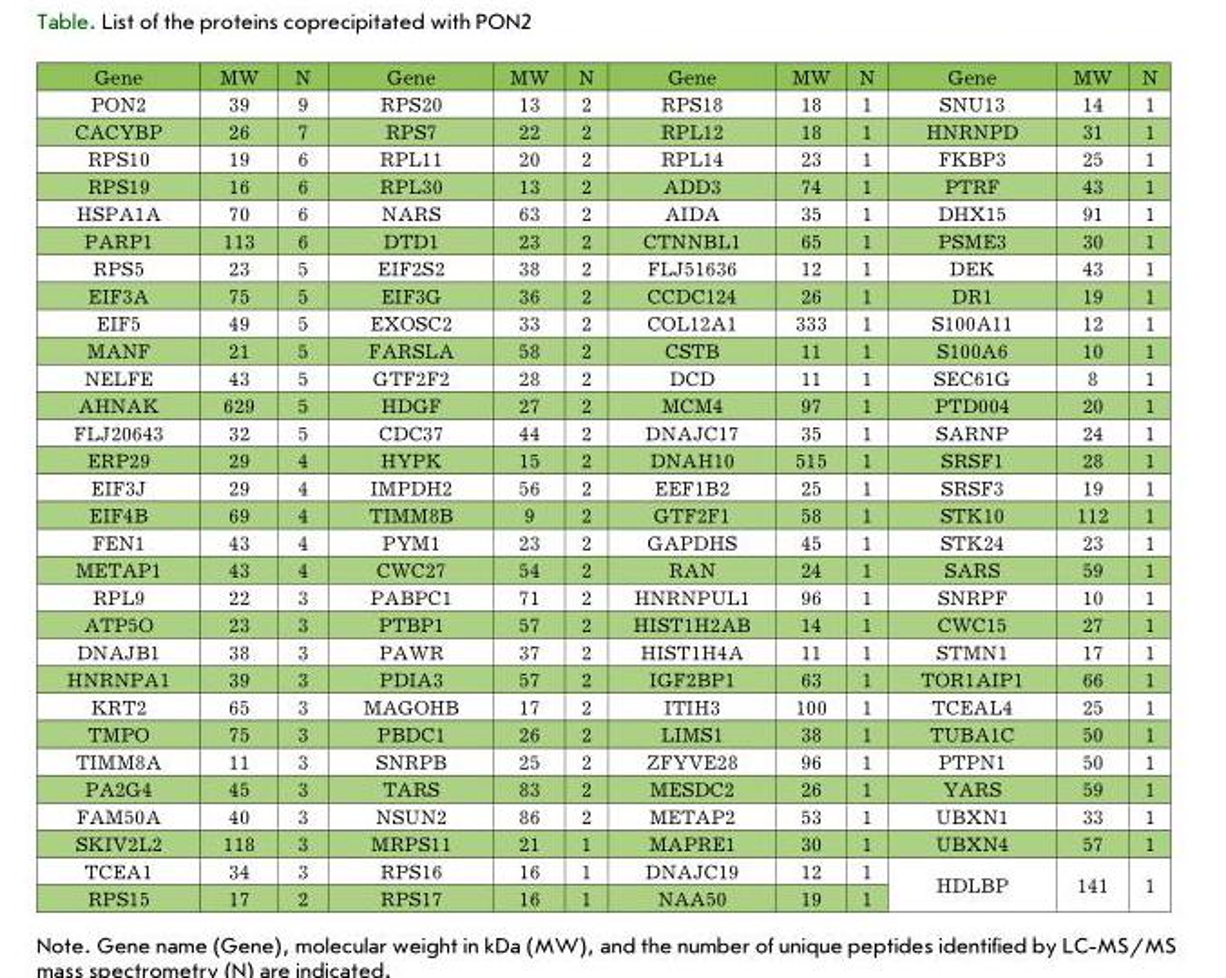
<table><thead><tr><td>Gene</td><td>MW</td><td>N</td><td>Gene</td><td>MW</td><td>N</td><td>Gene</td><td>MW</td><td>N</td><td>Gene</td><td>MW</td><td>N</td></tr></thead><tbody><tr><td>PON2</td><td>39</td><td>9</td><td>RPS20</td><td>13</td><td>2</td><td>RPS18</td><td>18</td><td>1</td><td>SNU13</td><td>14</td><td>1</td></tr><tr><td>CACYBP</td><td>26</td><td>7</td><td>RPS7</td><td>22</td><td>2</td><td>RPL12</td><td>18</td><td>1</td><td>HNRNPD</td><td>31</td><td>1</td></tr><tr><td>RPS10</td><td>19</td><td>6</td><td>RPL11</td><td>20</td><td>2</td><td>RPL14</td><td>23</td><td>1</td><td>FKBP3</td><td>25</td><td>1</td></tr><tr><td>RPS19</td><td>16</td><td>6</td><td>RPL30</td><td>13</td><td>2</td><td>ADD3</td><td>74</td><td>1</td><td>PTRF</td><td>43</td><td>1</td></tr><tr><td>HSPA1A</td><td>70</td><td>6</td><td>NARS</td><td>63</td><td>2</td><td>AIDA</td><td>35</td><td>1</td><td>DHX15</td><td>91</td><td>1</td></tr><tr><td>PARP1</td><td>113</td><td>6</td><td>DTD1</td><td>23</td><td>2</td><td>CTNNBL1</td><td>65</td><td>1</td><td>PSME3</td><td>30</td><td>1</td></tr><tr><td>RPS5</td><td>23</td><td>5</td><td>EIF2S2</td><td>38</td><td>2</td><td>FLJ51636</td><td>12</td><td>1</td><td>DEK</td><td>43</td><td>1</td></tr><tr><td>EIF3A</td><td>75</td><td>5</td><td>EIF3G</td><td>36</td><td>2</td><td>CCDC124</td><td>26</td><td>1</td><td>DR1</td><td>19</td><td>1</td></tr><tr><td>EIF5</td><td>49</td><td>5</td><td>EXOSC2</td><td>33</td><td>2</td><td>COL12A1</td><td>333</td><td>1</td><td>S100A11</td><td>12</td><td>1</td></tr><tr><td>MANF</td><td>21</td><td>5</td><td>FARSLA</td><td>58</td><td>2</td><td>CSTB</td><td>11</td><td>1</td><td>S100A6</td><td>10</td><td>1</td></tr><tr><td>NELFE</td><td>43</td><td>5</td><td>GTF2F2</td><td>28</td><td>2</td><td>DCD</td><td>11</td><td>1</td><td>SEC61G</td><td>8</td><td>1</td></tr><tr><td>AHNAK</td><td>629</td><td>5</td><td>HDGF</td><td>27</td><td>2</td><td>MCM4</td><td>97</td><td>1</td><td>PTD004</td><td>20</td><td>1</td></tr><tr><td>FLJ20643</td><td>32</td><td>5</td><td>CDC37</td><td>44</td><td>2</td><td>DNAJC17</td><td>35</td><td>1</td><td>SARNP</td><td>24</td><td>1</td></tr><tr><td>ERP29</td><td>29</td><td>4</td><td>HYPK</td><td>15</td><td>2</td><td>DNAH10</td><td>515</td><td>1</td><td>SRSF1</td><td>28</td><td>1</td></tr><tr><td>EIF3J</td><td>29</td><td>4</td><td>IMPDH2</td><td>56</td><td>2</td><td>EEF1B2</td><td>25</td><td>1</td><td>SRSF3</td><td>19</td><td>1</td></tr><tr><td>EIF4B</td><td>69</td><td>4</td><td>TIMM8B</td><td>9</td><td>2</td><td>GTF2F1</td><td>58</td><td>1</td><td>STK10</td><td>112</td><td>1</td></tr><tr><td>FEN1</td><td>43</td><td>4</td><td>PYM1</td><td>23</td><td>2</td><td>GAPDHS</td><td>45</td><td>1</td><td>STK24</td><td>23</td><td>1</td></tr><tr><td>METAP1</td><td>43</td><td>4</td><td>CWC27</td><td>54</td><td>2</td><td>RAN</td><td>24</td><td>1</td><td>SARS</td><td>59</td><td>1</td></tr><tr><td>RPL9</td><td>22</td><td>3</td><td>PABPC1</td><td>71</td><td>2</td><td>HNRNPUL1</td><td>96</td><td>1</td><td>SNRPF</td><td>10</td><td>1</td></tr><tr><td>ATP5O</td><td>23</td><td>3</td><td>PTBP1</td><td>57</td><td>2</td><td>HIST1H2AB</td><td>14</td><td>1</td><td>CWC15</td><td>27</td><td>1</td></tr><tr><td>DNAJB1</td><td>38</td><td>3</td><td>PAWR</td><td>37</td><td>2</td><td>HIST1H4A</td><td>11</td><td>1</td><td>STMN1</td><td>17</td><td>1</td></tr><tr><td>HNRNPA1</td><td>39</td><td>3</td><td>PDIA3</td><td>57</td><td>2</td><td>IGF2BP1</td><td>63</td><td>1</td><td>TOR1AIP1</td><td>66</td><td>1</td></tr><tr><td>KRT2</td><td>65</td><td>3</td><td>MAGOHB</td><td>17</td><td>2</td><td>ITIH3</td><td>100</td><td>1</td><td>TCEAL4</td><td>25</td><td>1</td></tr><tr><td>TMPO</td><td>75</td><td>3</td><td>PBDC1</td><td>26</td><td>2</td><td>LIMS1</td><td>38</td><td>1</td><td>TUBA1C</td><td>50</td><td>1</td></tr><tr><td>TIMM8A</td><td>11</td><td>3</td><td>SNRPB</td><td>25</td><td>2</td><td>ZFYVE28</td><td>96</td><td>1</td><td>PTPN1</td><td>50</td><td>1</td></tr><tr><td>PA2G4</td><td>45</td><td>3</td><td>TARS</td><td>83</td><td>2</td><td>MESDC2</td><td>26</td><td>1</td><td>YARS</td><td>59</td><td>1</td></tr><tr><td>FAM50A</td><td>40</td><td>3</td><td>NSUN2</td><td>86</td><td>2</td><td>METAP2</td><td>53</td><td>1</td><td>UBXN1</td><td>33</td><td>1</td></tr><tr><td>SKIV2L2</td><td>118</td><td>3</td><td>MRPS11</td><td>21</td><td>1</td><td>MAPRE1</td><td>30</td><td>1</td><td>UBXN4</td><td>57</td><td>1</td></tr><tr><td>TCEA1</td><td>34</td><td>3</td><td>RPS16</td><td>16</td><td>1</td><td>DNAJC19</td><td>12</td><td>1</td><td rowspan="2">HDLBP</td><td rowspan="2">141</td><td rowspan="2">1</td></tr><tr><td>RPS15</td><td>17</td><td>2</td><td>RPS17</td><td>16</td><td>1</td><td>NAA50</td><td>19</td><td>1</td></tr></tbody></table>